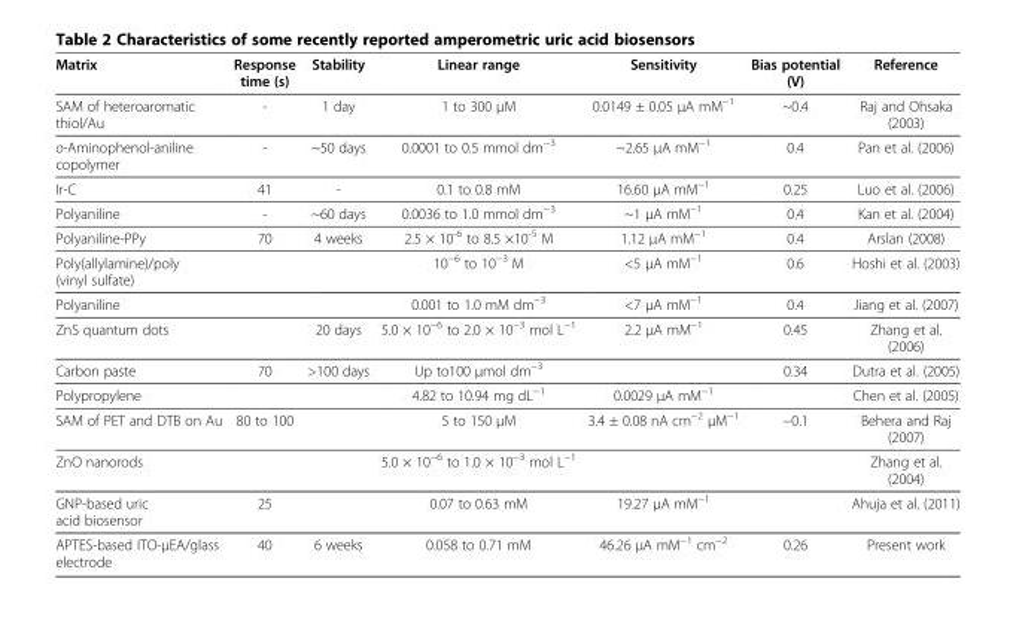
<table><thead><tr><td>Matrix</td><td>Response time (s)</td><td>Stability</td><td>Linear range</td><td>Sensitivity</td><td>Bias potential (V)</td><td>Reference</td></tr></thead><tbody><tr><td>SAM of heteroaromatic thiol/Au</td><td>-</td><td>1 day</td><td>1 to 300 μM</td><td>0.0149 ± 0.05 μA mM<sup>−1</sup></td><td>~0.4</td><td>Raj and Ohsaka (2003)</td></tr><tr><td>o-Aminophenol-aniline copolymer</td><td>-</td><td>~50 days</td><td>0.0001 to 0.5 mmol dm<sup>−3</sup></td><td>~2.65 μA mM<sup>−1</sup></td><td>0.4</td><td>Pan et al. (2006)</td></tr><tr><td>Ir-C</td><td>41</td><td>-</td><td>0.1 to 0.8 mM</td><td>16.60 μA mM<sup>−1</sup></td><td>0.25</td><td>Luo et al. (2006)</td></tr><tr><td>Polyaniline</td><td>-</td><td>~60 days</td><td>0.0036 to 1.0 mmol dm<sup>−3</sup></td><td>~1 μA mM<sup>−1</sup></td><td>0.4</td><td>Kan et al. (2004)</td></tr><tr><td>Polyaniline-PPy</td><td>70</td><td>4 weeks</td><td>2.5 × 10<sup>-6</sup> to 8.5 ×10<sup>-5</sup> M</td><td>1.12 μA mM<sup>−1</sup></td><td>0.4</td><td>Arslan (2008)</td></tr><tr><td>Poly(allylamine)/poly (vinyl sulfate)</td><td></td><td></td><td>10<sup>−6</sup> to 10<sup>−3</sup> M</td><td>&lt;5 μA mM<sup>−1</sup></td><td>0.6</td><td>Hoshi et al. (2003)</td></tr><tr><td>Polyaniline</td><td></td><td></td><td>0.001 to 1.0 mM dm<sup>−3</sup></td><td>&lt;7 μA mM<sup>−1</sup></td><td>0.4</td><td>Jiang et al. (2007)</td></tr><tr><td>ZnS quantum dots</td><td></td><td>20 days</td><td>5.0 × 10<sup>−6</sup> to 2.0 × 10<sup>−3</sup> mol L<sup>−1</sup></td><td>2.2 μA mM<sup>−1</sup></td><td>0.45</td><td>Zhang et al. (2006)</td></tr><tr><td>Carbon paste</td><td>70</td><td>&gt;100 days</td><td>Up to100 μmol dm<sup>−3</sup></td><td></td><td>0.34</td><td>Dutra et al. (2005)</td></tr><tr><td>Polypropylene</td><td></td><td></td><td>4.82 to 10.94 mg dL<sup>−1</sup></td><td>0.0029 μA mM<sup>−1</sup></td><td></td><td>Chen et al. (2005)</td></tr><tr><td>SAM of PET and DTB on Au</td><td>80 to 100</td><td></td><td>5 to 150 μM</td><td>3.4 ± 0.08 nA cm<sup>−2</sup> μM<sup>−1</sup></td><td>−0.1</td><td>Behera and Raj (2007)</td></tr><tr><td>ZnO nanorods</td><td></td><td></td><td>5.0 × 10<sup>−6</sup> to 1.0 × 10<sup>−3</sup> mol L<sup>−1</sup></td><td></td><td></td><td>Zhang et al. (2004)</td></tr><tr><td>GNP-based uric acid biosensor</td><td>25</td><td></td><td>0.07 to 0.63 mM</td><td>19.27 μA mM<sup>−1</sup></td><td></td><td>Ahuja et al. (2011)</td></tr><tr><td>APTES-based ITO-μEA/glass electrode</td><td>40</td><td>6 weeks</td><td>0.058 to 0.71 mM</td><td>46.26 μA mM<sup>−1</sup> cm<sup>−2</sup></td><td>0.26</td><td>Present work</td></tr></tbody></table>